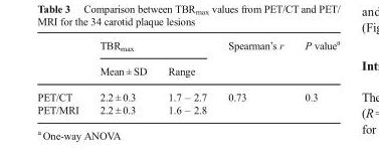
<table><thead><tr><td rowspan="2"></td><td colspan="2">TBR<sub>max</sub></td><td rowspan="2">Spearman’s r</td><td rowspan="2">P value<sup>a</sup></td></tr><tr><td>Mean ± SD</td><td>Range</td></tr></thead><tbody><tr><td>PET/CT</td><td>2.2 ± 0.3</td><td>1.7 – 2.7</td><td rowspan="2">0.73</td><td rowspan="2">0.3</td></tr><tr><td>PET/MRI</td><td>2.2 ± 0.3</td><td>1.6 – 2.8</td></tr></tbody></table>